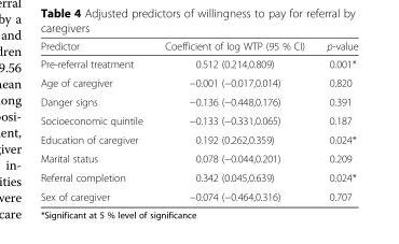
<table><thead><tr><td>Predictor</td><td>Coefficient of log WTP (95 % CI)</td><td>p-value</td></tr></thead><tbody><tr><td>Pre-referral treatment</td><td>0.512 (0.214,0.809)</td><td>0.001*</td></tr><tr><td>Age of caregiver</td><td>−0.001 (−0.017,0.014)</td><td>0.820</td></tr><tr><td>Danger signs</td><td>−0.136 (−0.448,0.176)</td><td>0.391</td></tr><tr><td>Socioeconomic quintile</td><td>−0.133 (−0.331,0.065)</td><td>0.187</td></tr><tr><td>Education of caregiver</td><td>0.192 (0.262,0.359)</td><td>0.024*</td></tr><tr><td>Marital status</td><td>0.078 (−0.044,0.201)</td><td>0.209</td></tr><tr><td>Referral completion</td><td>0.342 (0.045,0.639)</td><td>0.024*</td></tr><tr><td>Sex of caregiver</td><td>−0.074 (−0.464,0.316)</td><td>0.707</td></tr></tbody></table>